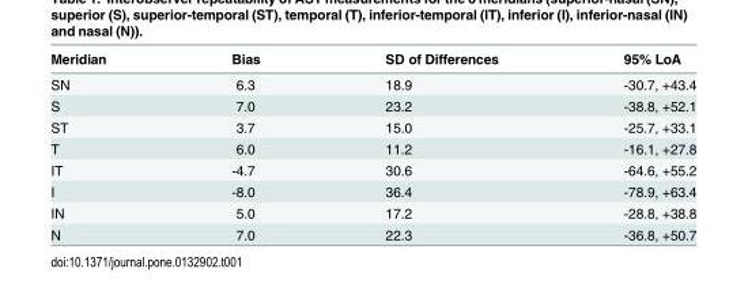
<table><thead><tr><td>Meridian</td><td>Bias</td><td>SD of Differences</td><td>95% LoA</td></tr></thead><tbody><tr><td>SN</td><td>6.3</td><td>18.9</td><td>-30.7, +43.4</td></tr><tr><td>S</td><td>7.0</td><td>23.2</td><td>-38.8, +52.1</td></tr><tr><td>ST</td><td>3.7</td><td>15.0</td><td>-25.7, +33.1</td></tr><tr><td>T</td><td>6.0</td><td>11.2</td><td>-16.1, +27.8</td></tr><tr><td>IT</td><td>-4.7</td><td>30.6</td><td>-64.6, +55.2</td></tr><tr><td>I</td><td>-8.0</td><td>36.4</td><td>-78.9, +63.4</td></tr><tr><td>IN</td><td>5.0</td><td>17.2</td><td>-28.8, +38.8</td></tr><tr><td>N</td><td>7.0</td><td>22.3</td><td>-36.8, +50.7</td></tr></tbody></table>